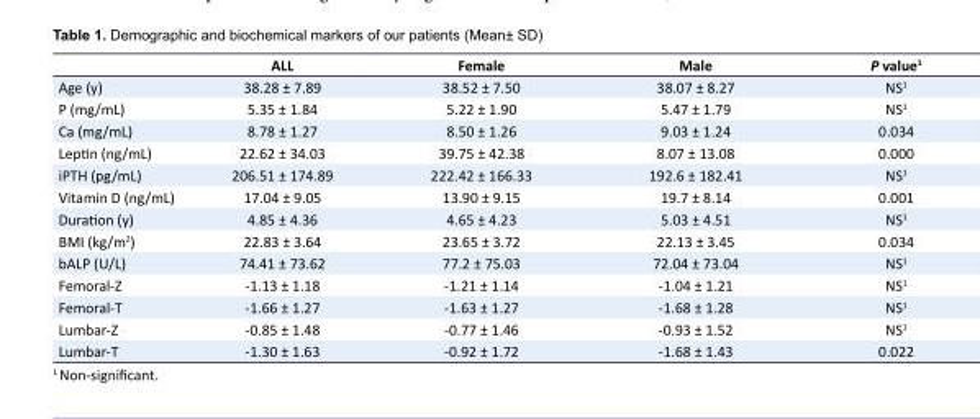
<table><thead><tr><td></td><td>ALL</td><td>Female</td><td>Male</td><td>P value<sup>1</sup></td></tr></thead><tbody><tr><td>Age (y)</td><td>38.28 ± 7.89</td><td>38.52 ± 7.50</td><td>38.07 ± 8.27</td><td>NS<sup>1</sup></td></tr><tr><td>P (mg/mL)</td><td>5.35 ± 1.84</td><td>5.22 ± 1.90</td><td>5.47 ± 1.79</td><td>NS<sup>1</sup></td></tr><tr><td>Ca (mg/mL)</td><td>8.78 ± 1.27</td><td>8.50 ± 1.26</td><td>9.03 ± 1.24</td><td>0.034</td></tr><tr><td>Leptin (ng/mL)</td><td>22.62 ± 34.03</td><td>39.75 ± 42.38</td><td>8.07 ± 13.08</td><td>0.000</td></tr><tr><td>iPTH (pg/mL)</td><td>206.51 ± 174.89</td><td>222.42 ± 166.33</td><td>192.6 ± 182.41</td><td>NS<sup>1</sup></td></tr><tr><td>Vitamin D (ng/mL)</td><td>17.04 ± 9.05</td><td>13.90 ± 9.15</td><td>19.7 ± 8.14</td><td>0.001</td></tr><tr><td>Duration (y)</td><td>4.85 ± 4.36</td><td>4.65 ± 4.23</td><td>5.03 ± 4.51</td><td>NS<sup>1</sup></td></tr><tr><td>BMI (kg/m<sup>2</sup>)</td><td>22.83 ± 3.64</td><td>23.65 ± 3.72</td><td>22.13 ± 3.45</td><td>0.034</td></tr><tr><td>bALP (U/L)</td><td>74.41 ± 73.62</td><td>77.2 ± 75.03</td><td>72.04 ± 73.04</td><td>NS<sup>1</sup></td></tr><tr><td>Femoral-Z</td><td>-1.13 ± 1.18</td><td>-1.21 ± 1.14</td><td>-1.04 ± 1.21</td><td>NS<sup>1</sup></td></tr><tr><td>Femoral-T</td><td>-1.66 ± 1.27</td><td>-1.63 ± 1.27</td><td>-1.68 ± 1.28</td><td>NS<sup>1</sup></td></tr><tr><td>Lumbar-Z</td><td>-0.85 ± 1.48</td><td>-0.77 ± 1.46</td><td>-0.93 ± 1.52</td><td>NS<sup>1</sup></td></tr><tr><td>Lumbar-T</td><td>-1.30 ± 1.63</td><td>-0.92 ± 1.72</td><td>-1.68 ± 1.43</td><td>0.022</td></tr></tbody></table>